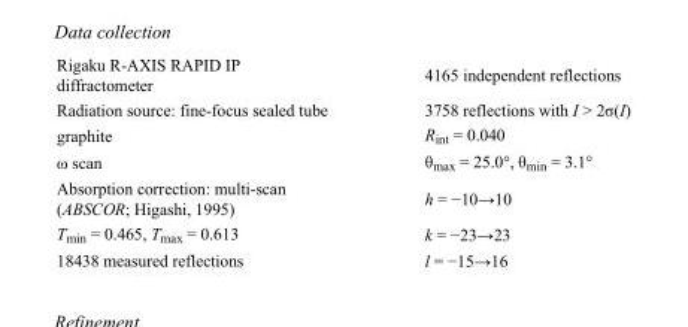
<table><tbody><tr><td>Rigaku R-AXIS RAPID IP diffractometer</td><td>4165 independent reflections</td></tr><tr><td>Radiation source: fine-focus sealed tube</td><td>3758 reflections with I &gt; 2σ(I)</td></tr><tr><td>graphite</td><td>R<sub>int</sub> = 0.040</td></tr><tr><td>ω scan</td><td>θ<sub>max</sub> = 25.0°, θ<sub>min</sub> = 3.1°</td></tr><tr><td>Absorption correction: multi-scan (ABSCOR; Higashi, 1995)</td><td>h = −10→10</td></tr><tr><td>T<sub>min</sub> = 0.465, T<sub>max</sub> = 0.613</td><td>k = −23→23</td></tr><tr><td>18438 measured reflections</td><td>l = −15→16</td></tr></tbody></table>